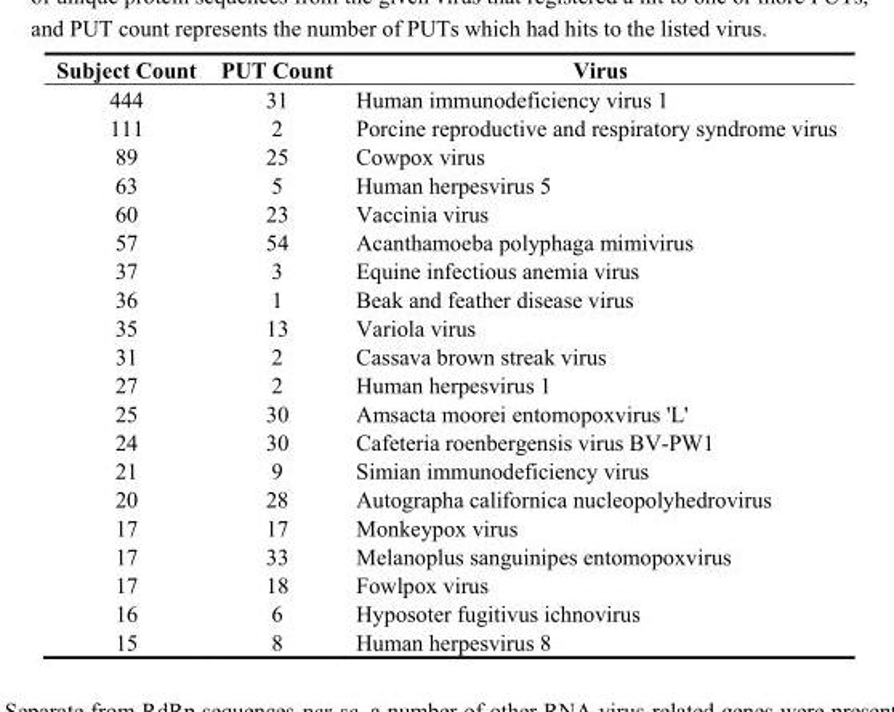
<table><thead><tr><td>Subject Count</td><td>PUT Count</td><td>Virus</td></tr></thead><tbody><tr><td>444</td><td>31</td><td>Human immunodeficiency virus 1</td></tr><tr><td>111</td><td>2</td><td>Porcine reproductive and respiratory syndrome virus</td></tr><tr><td>89</td><td>25</td><td>Cowpox virus</td></tr><tr><td>63</td><td>5</td><td>Human herpesvirus 5</td></tr><tr><td>60</td><td>23</td><td>Vaccinia virus</td></tr><tr><td>57</td><td>54</td><td>Acanthamoeba polyphaga mimivirus</td></tr><tr><td>37</td><td>3</td><td>Equine infectious anemia virus</td></tr><tr><td>36</td><td>1</td><td>Beak and feather disease virus</td></tr><tr><td>35</td><td>13</td><td>Variola virus</td></tr><tr><td>31</td><td>2</td><td>Cassava brown streak virus</td></tr><tr><td>27</td><td>2</td><td>Human herpesvirus 1</td></tr><tr><td>25</td><td>30</td><td>Amsacta moorei entomopoxvirus &#x27;L&#x27;</td></tr><tr><td>24</td><td>30</td><td>Cafeteria roenbergensis virus BV-PW1</td></tr><tr><td>21</td><td>9</td><td>Simian immunodeficiency virus</td></tr><tr><td>20</td><td>28</td><td>Autographa californica nucleopolyhedrovirus</td></tr><tr><td>17</td><td>17</td><td>Monkeypox virus</td></tr><tr><td>17</td><td>33</td><td>Melanoplus sanguinipes entomopoxvirus</td></tr><tr><td>17</td><td>18</td><td>Fowlpox virus</td></tr><tr><td>16</td><td>6</td><td>Hyposoter fugitivus ichnovirus</td></tr><tr><td>15</td><td>8</td><td>Human herpesvirus 8</td></tr></tbody></table>